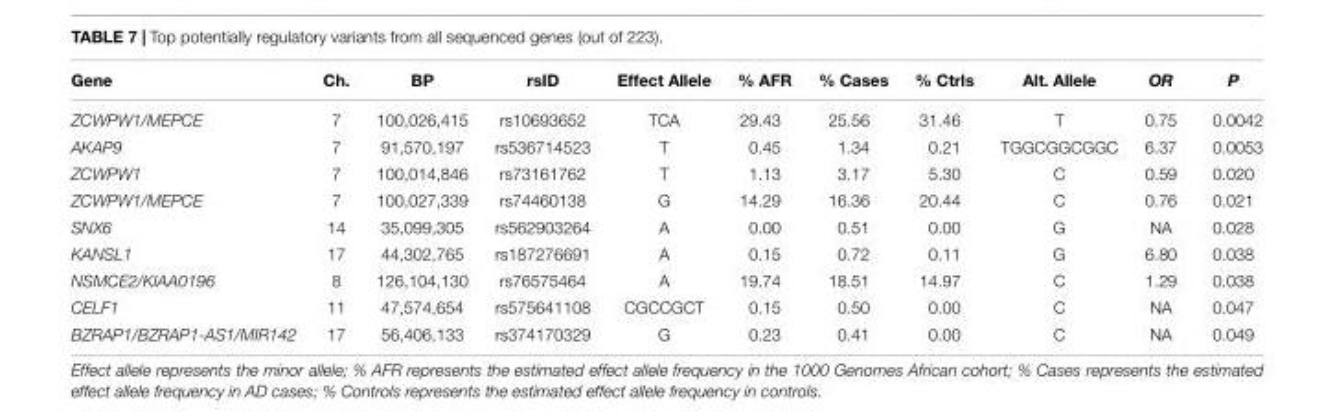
<table><thead><tr><td>Gene</td><td>Ch.</td><td>BP</td><td>rsID</td><td>Effect Allele</td><td>% AFR</td><td>% Cases</td><td>% Ctrls</td><td>Alt. Allele</td><td>OR</td><td>P</td></tr></thead><tbody><tr><td>ZCWPW1/MEPCE</td><td>7</td><td>100,026,415</td><td>rs10693652</td><td>TCA</td><td>29.43</td><td>25.56</td><td>31.46</td><td>T</td><td>0.75</td><td>0.0042</td></tr><tr><td>AKAP9</td><td>7</td><td>91,570,197</td><td>rs536714523</td><td>T</td><td>0.45</td><td>1.34</td><td>0.21</td><td>TGGCGGCGGC</td><td>6.37</td><td>0.0053</td></tr><tr><td>ZCWPW1</td><td>7</td><td>100,014,846</td><td>rs73161762</td><td>T</td><td>1.13</td><td>3.17</td><td>5.30</td><td>C</td><td>0.59</td><td>0.020</td></tr><tr><td>ZCWPW1/MEPCE</td><td>7</td><td>100,027,339</td><td>rs74460138</td><td>G</td><td>14.29</td><td>16.36</td><td>20.44</td><td>C</td><td>0.76</td><td>0.021</td></tr><tr><td>SNX6</td><td>14</td><td>35,099,305</td><td>rs562903264</td><td>A</td><td>0.00</td><td>0.51</td><td>0.00</td><td>G</td><td>NA</td><td>0.028</td></tr><tr><td>KANSL1</td><td>17</td><td>44,302,765</td><td>rs187276691</td><td>A</td><td>0.15</td><td>0.72</td><td>0.11</td><td>G</td><td>6.80</td><td>0.038</td></tr><tr><td>NSMCE2/KIAA0196</td><td>8</td><td>126,104,130</td><td>rs76575464</td><td>A</td><td>19.74</td><td>18.51</td><td>14.97</td><td>C</td><td>1.29</td><td>0.038</td></tr><tr><td>CELF1</td><td>11</td><td>47,574,654</td><td>rs575641108</td><td>CGCCGCT</td><td>0.15</td><td>0.50</td><td>0.00</td><td>C</td><td>NA</td><td>0.047</td></tr><tr><td>BZRAP1/BZRAP1-AS1/MIR142</td><td>17</td><td>56,406,133</td><td>rs374170329</td><td>G</td><td>0.23</td><td>0.41</td><td>0.00</td><td>C</td><td>NA</td><td>0.049</td></tr></tbody></table>